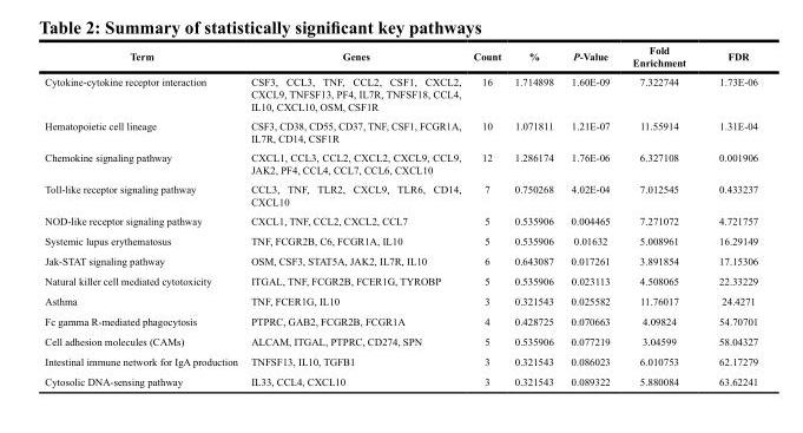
<table><thead><tr><td>Term</td><td>Genes</td><td>Count</td><td>%</td><td>P-Value</td><td>Fold Enrichment</td><td>FDR</td></tr></thead><tbody><tr><td>Cytokine-cytokine receptor interaction</td><td>CSF3, CCL3, TNF, CCL2, CSF1, CXCL2, CXCL9, TNFSF13, PF4, IL7R, TNFSF18, CCL4, IL10, CXCL10, OSM, CSF1R</td><td>16</td><td>1.714898</td><td>1.60E-09</td><td>7.322744</td><td>1.73E-06</td></tr><tr><td>Hematopoietic cell lineage</td><td>CSF3, CD38, CD55, CD37, TNF, CSF1, FCGR1A, IL7R, CD14, CSF1R</td><td>10</td><td>1.071811</td><td>1.21E-07</td><td>11.55914</td><td>1.31E-04</td></tr><tr><td>Chemokine signaling pathway</td><td>CXCL1, CCL3, CCL2, CXCL2, CXCL9, CCL9, JAK2, PF4, CCL4, CCL7, CCL6, CXCL10</td><td>12</td><td>1.286174</td><td>1.76E-06</td><td>6.327108</td><td>0.001906</td></tr><tr><td>Toll-like receptor signaling pathway</td><td>CCL3, TNF, TLR2, CXCL9, TLR6, CD14, CXCL10</td><td>7</td><td>0.750268</td><td>4.02E-04</td><td>7.012545</td><td>0.433237</td></tr><tr><td>NOD-like receptor signaling pathway</td><td>CXCL1, TNF, CCL2, CXCL2, CCL7</td><td>5</td><td>0.535906</td><td>0.004465</td><td>7.271072</td><td>4.721757</td></tr><tr><td>Systemic lupus erythematosus</td><td>TNF, FCGR2B, C6, FCGR1A, IL10</td><td>5</td><td>0.535906</td><td>0.01632</td><td>5.008961</td><td>16.29149</td></tr><tr><td>Jak-STAT signaling pathway</td><td>OSM, CSF3, STAT5A, JAK2, IL7R, IL10</td><td>6</td><td>0.643087</td><td>0.017261</td><td>3.891854</td><td>17.15306</td></tr><tr><td>Natural killer cell mediated cytotoxicity</td><td>ITGAL, TNF, FCGR2B, FCER1G, TYROBP</td><td>5</td><td>0.535906</td><td>0.023113</td><td>4.508065</td><td>22.33229</td></tr><tr><td>Asthma</td><td>TNF, FCER1G, IL10</td><td>3</td><td>0.321543</td><td>0.025582</td><td>11.76017</td><td>24.4271</td></tr><tr><td>Fc gamma R-mediated phagocytosis</td><td>PTPRC, GAB2, FCGR2B, FCGR1A</td><td>4</td><td>0.428725</td><td>0.070663</td><td>4.09824</td><td>54.70701</td></tr><tr><td>Cell adhesion molecules (CAMs)</td><td>ALCAM, ITGAL, PTPRC, CD274, SPN</td><td>5</td><td>0.535906</td><td>0.077219</td><td>3.04599</td><td>58.04327</td></tr><tr><td>Intestinal immune network for IgA production</td><td>TNFSF13, IL10, TGFB1</td><td>3</td><td>0.321543</td><td>0.086023</td><td>6.010753</td><td>62.17279</td></tr><tr><td>Cytosolic DNA-sensing pathway</td><td>IL33, CCL4, CXCL10</td><td>3</td><td>0.321543</td><td>0.089322</td><td>5.880084</td><td>63.62241</td></tr></tbody></table>